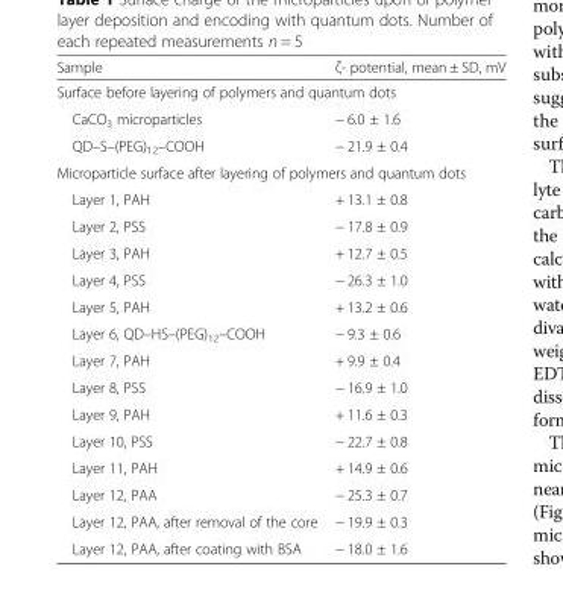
<table><thead><tr><td>Sample</td><td>ζ- potential, mean ± SD, mV</td></tr></thead><tbody><tr><td colspan="2">Surface before layering of polymers and quantum dots</td></tr><tr><td>CaCO<sub>3</sub> microparticles</td><td>− 6.0 ± 1.6</td></tr><tr><td>QD–S–(PEG)<sub>12</sub>–COOH</td><td>− 21.9 ± 0.4</td></tr><tr><td colspan="2">Microparticle surface after layering of polymers and quantum dots</td></tr><tr><td>Layer 1, PAH</td><td>+ 13.1 ± 0.8</td></tr><tr><td>Layer 2, PSS</td><td>− 17.8 ± 0.9</td></tr><tr><td>Layer 3, PAH</td><td>+ 12.7 ± 0.5</td></tr><tr><td>Layer 4, PSS</td><td>− 26.3 ± 1.0</td></tr><tr><td>Layer 5, PAH</td><td>+ 13.2 ± 0.6</td></tr><tr><td>Layer 6, QD–HS–(PEG)<sub>12</sub>–COOH</td><td>− 9.3 ± 0.6</td></tr><tr><td>Layer 7, PAH</td><td>+ 9.9 ± 0.4</td></tr><tr><td>Layer 8, PSS</td><td>− 16.9 ± 1.0</td></tr><tr><td>Layer 9, PAH</td><td>+ 11.6 ± 0.3</td></tr><tr><td>Layer 10, PSS</td><td>− 22.7 ± 0.8</td></tr><tr><td>Layer 11, PAH</td><td>+ 14.9 ± 0.6</td></tr><tr><td>Layer 12, PAA</td><td>− 25.3 ± 0.7</td></tr><tr><td>Layer 12, PAA, after removal of the core</td><td>− 19.9 ± 0.3</td></tr><tr><td>Layer 12, PAA, after coating with BSA</td><td>− 18.0 ± 1.6</td></tr></tbody></table>